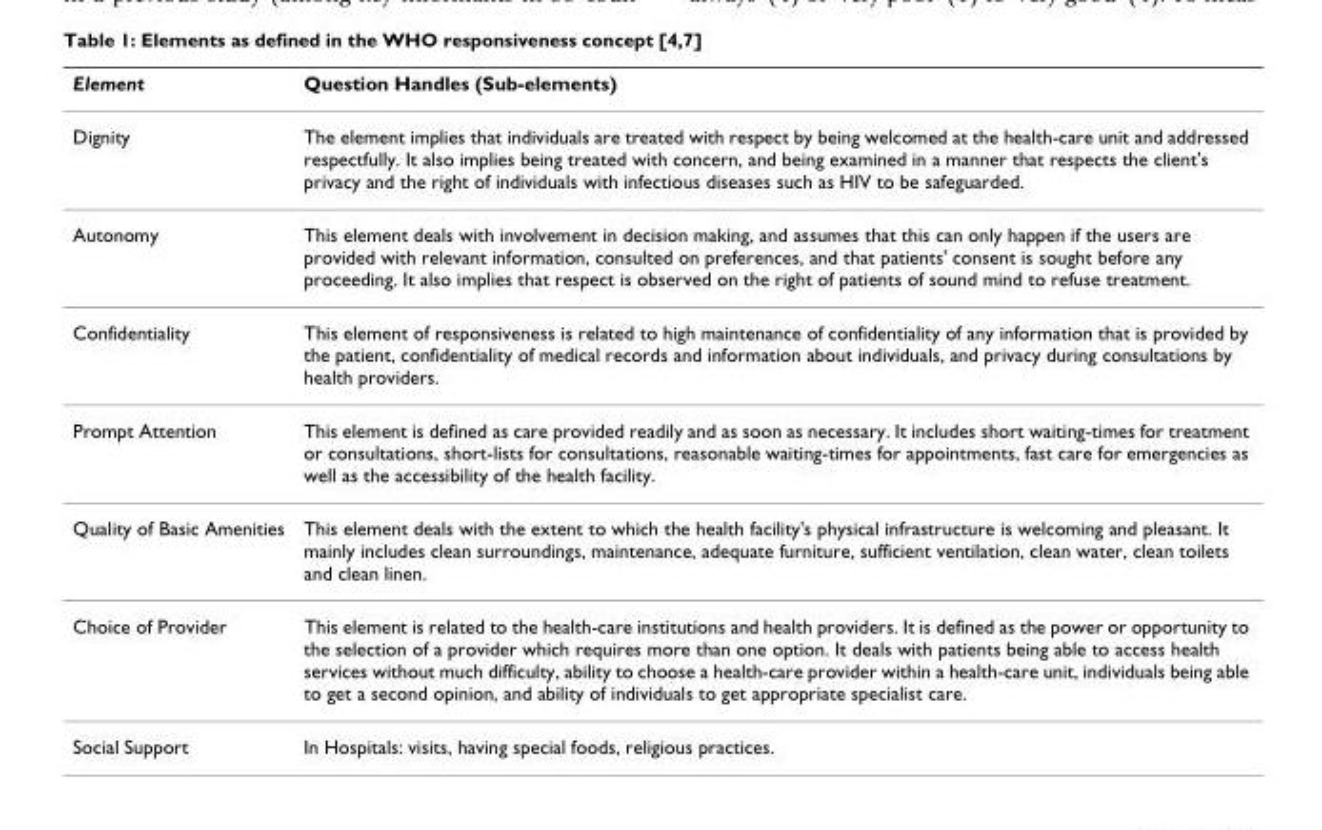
<table><thead><tr><td>Element</td><td>Question Handles (Sub-elements)</td></tr></thead><tbody><tr><td>Dignity</td><td>The element implies that individuals are treated with respect by being welcomed at the health-care unit and addressed respectfully. It also implies being treated with concern, and being examined in a manner that respects the client&#x27;s privacy and the right of individuals with infectious diseases such as HIV to be safeguarded.</td></tr><tr><td>Autonomy</td><td>This element deals with involvement in decision making, and assumes that this can only happen if the users are provided with relevant information, consulted on preferences, and that patients&#x27; consent is sought before any proceeding. It also implies that respect is observed on the right of patients of sound mind to refuse treatment.</td></tr><tr><td>Confidentiality</td><td>This element of responsiveness is related to high maintenance of confidentiality of any information that is provided by the patient, confidentiality of medical records and information about individuals, and privacy during consultations by health providers.</td></tr><tr><td>Prompt Attention</td><td>This element is defined as care provided readily and as soon as necessary. It includes short waiting-times for treatment or consultations, short-lists for consultations, reasonable waiting-times for appointments, fast care for emergencies as well as the accessibility of the health facility.</td></tr><tr><td>Quality of Basic Amenities</td><td>This element deals with the extent to which the health facility&#x27;s physical infrastructure is welcoming and pleasant. It mainly includes clean surroundings, maintenance, adequate furniture, sufficient ventilation, clean water, clean toilets and clean linen.</td></tr><tr><td>Choice of Provider</td><td>This element is related to the health-care institutions and health providers. It is defined as the power or opportunity to the selection of a provider which requires more than one option. It deals with patients being able to access health services without much difficulty, ability to choose a health-care provider within a health-care unit, individuals being able to get a second opinion, and ability of individuals to get appropriate specialist care.</td></tr><tr><td>Social Support</td><td>In Hospitals: visits, having special foods, religious practices.</td></tr></tbody></table>